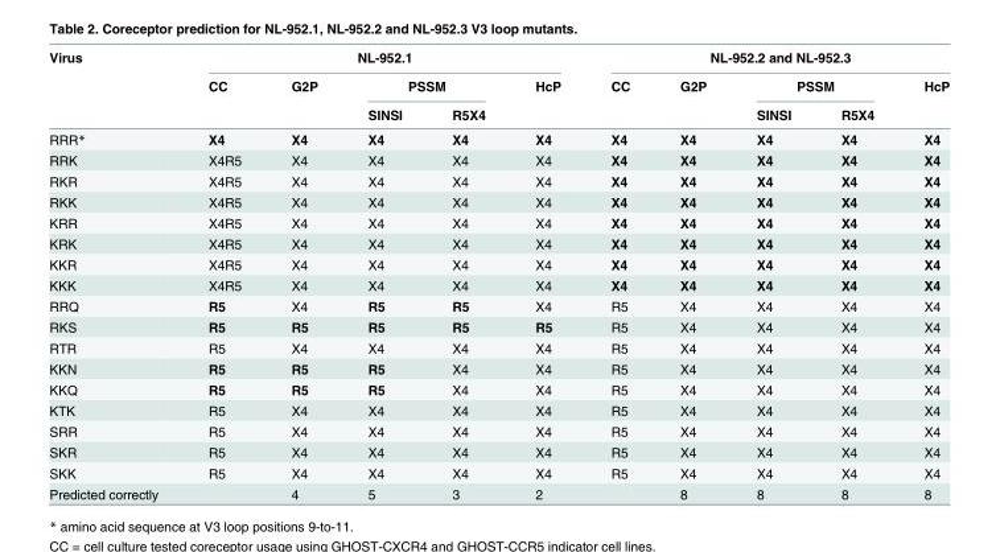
<table><thead><tr><td rowspan="3">Virus</td><td colspan="5">NL-952.1</td><td colspan="5">NL-952.2 and NL-952.3</td></tr><tr><td rowspan="2">CC</td><td rowspan="2">G2P</td><td colspan="2">PSSM</td><td rowspan="2">HcP</td><td rowspan="2">CC</td><td rowspan="2">G2P</td><td colspan="2">PSSM</td><td rowspan="2">HcP</td></tr><tr><td>SINSI</td><td>R5X4</td><td>SINSI</td><td>R5X4</td></tr></thead><tbody><tr><td>RRR*</td><td>X4</td><td>X4</td><td>X4</td><td>X4</td><td>X4</td><td>X4</td><td>X4</td><td>X4</td><td>X4</td><td>X4</td></tr><tr><td>RRK</td><td>X4R5</td><td>X4</td><td>X4</td><td>X4</td><td>X4</td><td>X4</td><td>X4</td><td>X4</td><td>X4</td><td>X4</td></tr><tr><td>RKR</td><td>X4R5</td><td>X4</td><td>X4</td><td>X4</td><td>X4</td><td>X4</td><td>X4</td><td>X4</td><td>X4</td><td>X4</td></tr><tr><td>RKK</td><td>X4R5</td><td>X4</td><td>X4</td><td>X4</td><td>X4</td><td>X4</td><td>X4</td><td>X4</td><td>X4</td><td>X4</td></tr><tr><td>KRR</td><td>X4R5</td><td>X4</td><td>X4</td><td>X4</td><td>X4</td><td>X4</td><td>X4</td><td>X4</td><td>X4</td><td>X4</td></tr><tr><td>KRK</td><td>X4R5</td><td>X4</td><td>X4</td><td>X4</td><td>X4</td><td>X4</td><td>X4</td><td>X4</td><td>X4</td><td>X4</td></tr><tr><td>KKR</td><td>X4R5</td><td>X4</td><td>X4</td><td>X4</td><td>X4</td><td>X4</td><td>X4</td><td>X4</td><td>X4</td><td>X4</td></tr><tr><td>KKK</td><td>X4R5</td><td>X4</td><td>X4</td><td>X4</td><td>X4</td><td>X4</td><td>X4</td><td>X4</td><td>X4</td><td>X4</td></tr><tr><td>RRQ</td><td>R5</td><td>X4</td><td>R5</td><td>R5</td><td>X4</td><td>R5</td><td>X4</td><td>X4</td><td>X4</td><td>X4</td></tr><tr><td>RKS</td><td>R5</td><td>R5</td><td>R5</td><td>R5</td><td>R5</td><td>R5</td><td>X4</td><td>X4</td><td>X4</td><td>X4</td></tr><tr><td>RTR</td><td>R5</td><td>X4</td><td>X4</td><td>X4</td><td>X4</td><td>R5</td><td>X4</td><td>X4</td><td>X4</td><td>X4</td></tr><tr><td>KKN</td><td>R5</td><td>R5</td><td>R5</td><td>X4</td><td>X4</td><td>R5</td><td>X4</td><td>X4</td><td>X4</td><td>X4</td></tr><tr><td>KKQ</td><td>R5</td><td>R5</td><td>R5</td><td>X4</td><td>X4</td><td>R5</td><td>X4</td><td>X4</td><td>X4</td><td>X4</td></tr><tr><td>KTK</td><td>R5</td><td>X4</td><td>X4</td><td>X4</td><td>X4</td><td>R5</td><td>X4</td><td>X4</td><td>X4</td><td>X4</td></tr><tr><td>SRR</td><td>R5</td><td>X4</td><td>X4</td><td>X4</td><td>X4</td><td>R5</td><td>X4</td><td>X4</td><td>X4</td><td>X4</td></tr><tr><td>SKR</td><td>R5</td><td>X4</td><td>X4</td><td>X4</td><td>X4</td><td>R5</td><td>X4</td><td>X4</td><td>X4</td><td>X4</td></tr><tr><td>SKK</td><td>R5</td><td>X4</td><td>X4</td><td>X4</td><td>X4</td><td>R5</td><td>X4</td><td>X4</td><td>X4</td><td>X4</td></tr><tr><td>Predicted correctly</td><td></td><td>4</td><td>5</td><td>3</td><td>2</td><td></td><td>8</td><td>8</td><td>8</td><td>8</td></tr></tbody></table>